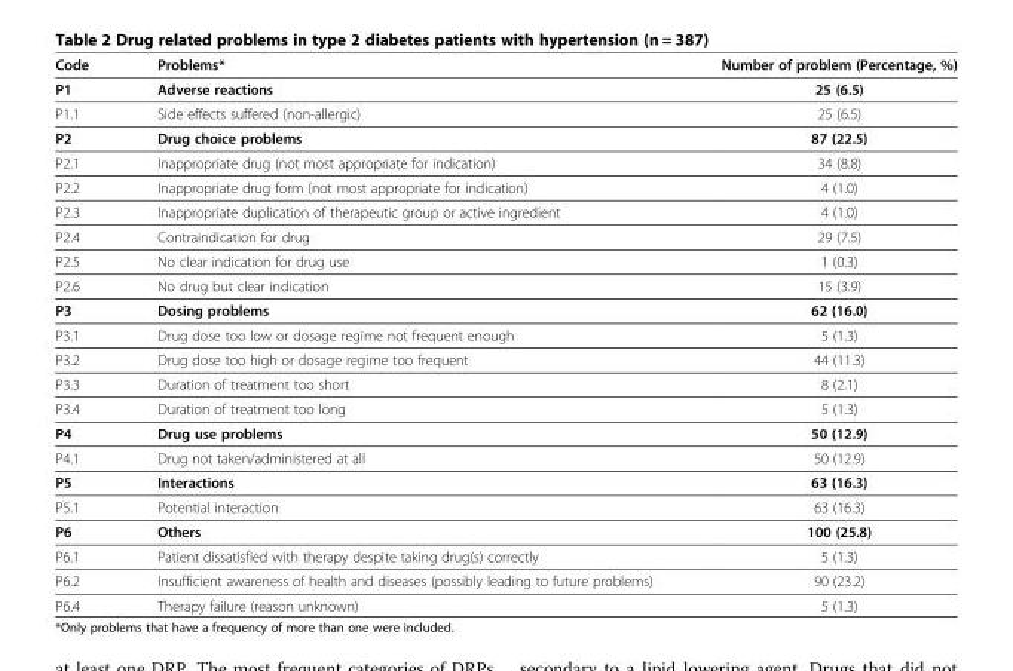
<table><thead><tr><td>Code</td><td>Problems*</td><td>Number of problem (Percentage, %)</td></tr></thead><tbody><tr><td>P1</td><td>Adverse reactions</td><td>25 (6.5)</td></tr><tr><td>P1.1</td><td>Side effects suffered (non-allergic)</td><td>25 (6.5)</td></tr><tr><td>P2</td><td>Drug choice problems</td><td>87 (22.5)</td></tr><tr><td>P2.1</td><td>Inappropriate drug (not most appropriate for indication)</td><td>34 (8.8)</td></tr><tr><td>P2.2</td><td>Inappropriate drug form (not most appropriate for indication)</td><td>4 (1.0)</td></tr><tr><td>P2.3</td><td>Inappropriate duplication of therapeutic group or active ingredient</td><td>4 (1.0)</td></tr><tr><td>P2.4</td><td>Contraindication for drug</td><td>29 (7.5)</td></tr><tr><td>P2.5</td><td>No clear indication for drug use</td><td>1 (0.3)</td></tr><tr><td>P2.6</td><td>No drug but clear indication</td><td>15 (3.9)</td></tr><tr><td>P3</td><td>Dosing problems</td><td>62 (16.0)</td></tr><tr><td>P3.1</td><td>Drug dose too low or dosage regime not frequent enough</td><td>5 (1.3)</td></tr><tr><td>P3.2</td><td>Drug dose too high or dosage regime too frequent</td><td>44 (11.3)</td></tr><tr><td>P3.3</td><td>Duration of treatment too short</td><td>8 (2.1)</td></tr><tr><td>P3.4</td><td>Duration of treatment too long</td><td>5 (1.3)</td></tr><tr><td>P4</td><td>Drug use problems</td><td>50 (12.9)</td></tr><tr><td>P4.1</td><td>Drug not taken/administered at all</td><td>50 (12.9)</td></tr><tr><td>P5</td><td>Interactions</td><td>63 (16.3)</td></tr><tr><td>P5.1</td><td>Potential interaction</td><td>63 (16.3)</td></tr><tr><td>P6</td><td>Others</td><td>100 (25.8)</td></tr><tr><td>P6.1</td><td>Patient dissatisfied with therapy despite taking drug(s) correctly</td><td>5 (1.3)</td></tr><tr><td>P6.2</td><td>Insufficient awareness of health and diseases (possibly leading to future problems)</td><td>90 (23.2)</td></tr><tr><td>P6.4</td><td>Therapy failure (reason unknown)</td><td>5 (1.3)</td></tr></tbody></table>